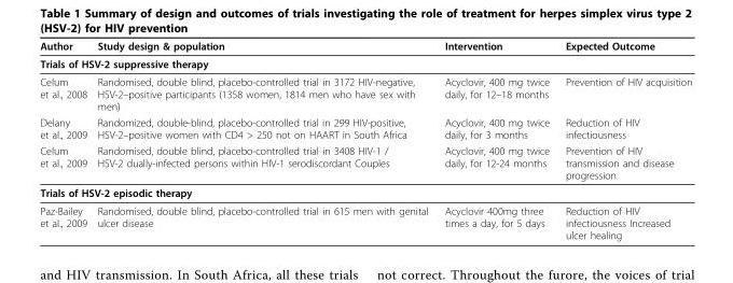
<table><thead><tr><td>Author</td><td>Study design &amp; population</td><td>Intervention</td><td>Expected Outcome</td></tr></thead><tbody><tr><td colspan="4">Trials of HSV-2 suppressive therapy</td></tr><tr><td>Celum et al., 2008</td><td>Randomised, double blind, placebo-controlled trial in 3172 HIV-negative, HSV-2–positive participants (1358 women, 1814 men who have sex with men)</td><td>Acyclovir, 400 mg twice daily, for 12–18 months</td><td>Prevention of HIV acquisition</td></tr><tr><td>Delany et al., 2009</td><td>Randomized, double-blind, placebo-controlled trial in 299 HIV-positive, HSV-2–positive women with CD4 &gt; 250 not on HAART in South Africa</td><td>Acyclovir, 400 mg twice daily, for 3 months</td><td>Reduction of HIV infectiousness</td></tr><tr><td>Celum et al., 2009</td><td>Randomised, double blind, placebo-controlled trial in 3408 HIV-1 / HSV-2 dually-infected persons within HIV-1 serodiscordant Couples</td><td>Acyclovir, 400 mg twice daily, for 12-24 months</td><td>Prevention of HIV transmission and disease progression</td></tr><tr><td colspan="4">Trials of HSV-2 episodic therapy</td></tr><tr><td>Paz-Bailey et al., 2009</td><td>Randomised, double blind, placebo-controlled trial in 615 men with genital ulcer disease</td><td>Acyclovir 400mg three times a day, for 5 days</td><td>Reduction of HIV infectiousness Increased ulcer healing</td></tr></tbody></table>